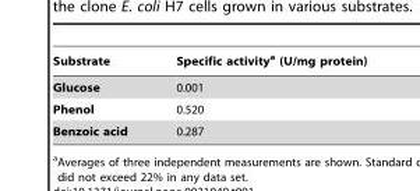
<table><thead><tr><td>Substrate</td><td>Specific activity<sup>a</sup> (U/mg protein)</td></tr></thead><tbody><tr><td>Glucose</td><td>0.001</td></tr><tr><td>Phenol</td><td>0.520</td></tr><tr><td>Benzoic acid</td><td>0.287</td></tr></tbody></table>